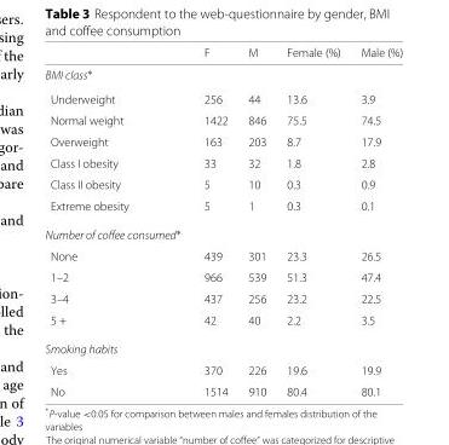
<table><thead><tr><td></td><td>F</td><td>M</td><td>Female (%)</td><td>Male (%)</td></tr></thead><tbody><tr><td colspan="5">BMI class∗</td></tr><tr><td>Underweight</td><td>256</td><td>44</td><td>13.6</td><td>3.9</td></tr><tr><td>Normal weight</td><td>1422</td><td>846</td><td>75.5</td><td>74.5</td></tr><tr><td>Overweight</td><td>163</td><td>203</td><td>8.7</td><td>17.9</td></tr><tr><td>Class I obesity</td><td>33</td><td>32</td><td>1.8</td><td>2.8</td></tr><tr><td>Class II obesity</td><td>5</td><td>10</td><td>0.3</td><td>0.9</td></tr><tr><td>Extreme obesity</td><td>5</td><td>1</td><td>0.3</td><td>0.1</td></tr><tr><td colspan="5">Number of coffee consumed∗</td></tr><tr><td>None</td><td>439</td><td>301</td><td>23.3</td><td>26.5</td></tr><tr><td>1–2</td><td>966</td><td>539</td><td>51.3</td><td>47.4</td></tr><tr><td>3–4</td><td>437</td><td>256</td><td>23.2</td><td>22.5</td></tr><tr><td>5 +</td><td>42</td><td>40</td><td>2.2</td><td>3.5</td></tr><tr><td colspan="5">Smoking habits</td></tr><tr><td>Yes</td><td>370</td><td>226</td><td>19.6</td><td>19.9</td></tr><tr><td>No</td><td>1514</td><td>910</td><td>80.4</td><td>80.1</td></tr></tbody></table>